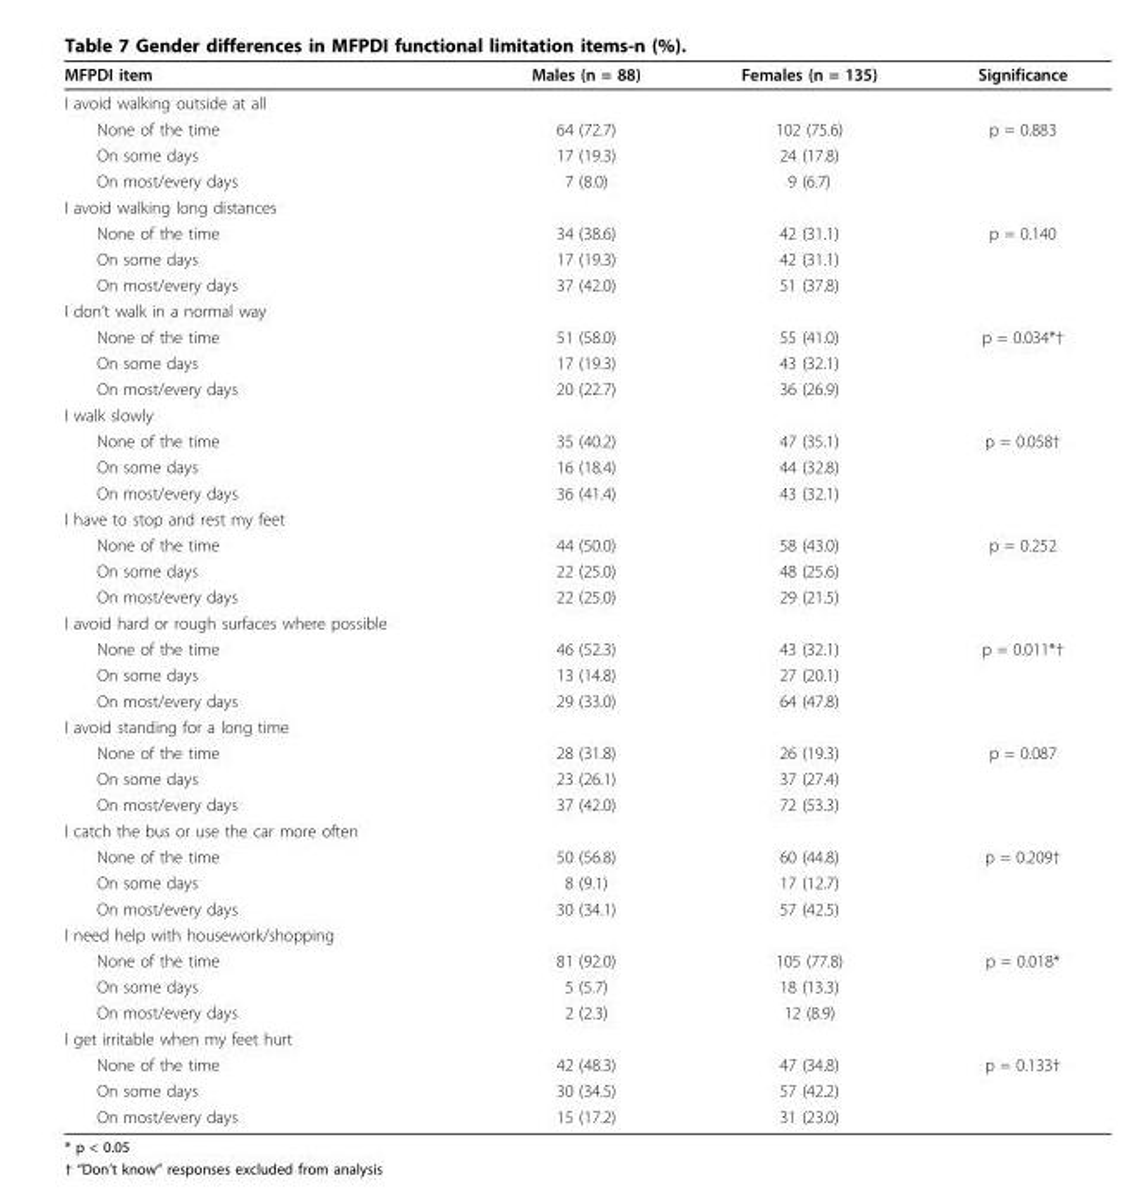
<table><thead><tr><td>MFPDI item</td><td>Males (n = 88)</td><td>Females (n = 135)</td><td>Significance</td></tr></thead><tbody><tr><td colspan="4">I avoid walking outside at all</td></tr><tr><td>None of the time</td><td>64 (72.7)</td><td>102 (75.6)</td><td>p = 0.883</td></tr><tr><td>On some days</td><td>17 (19.3)</td><td>24 (17.8)</td><td></td></tr><tr><td>On most/every days</td><td>7 (8.0)</td><td>9 (6.7)</td><td></td></tr><tr><td colspan="4">I avoid walking long distances</td></tr><tr><td>None of the time</td><td>34 (38.6)</td><td>42 (31.1)</td><td>p = 0.140</td></tr><tr><td>On some days</td><td>17 (19.3)</td><td>42 (31.1)</td><td></td></tr><tr><td>On most/every days</td><td>37 (42.0)</td><td>51 (37.8)</td><td></td></tr><tr><td colspan="4">I don’t walk in a normal way</td></tr><tr><td>None of the time</td><td>51 (58.0)</td><td>55 (41.0)</td><td>p = 0.034*†</td></tr><tr><td>On some days</td><td>17 (19.3)</td><td>43 (32.1)</td><td></td></tr><tr><td>On most/every days</td><td>20 (22.7)</td><td>36 (26.9)</td><td></td></tr><tr><td colspan="4">I walk slowly</td></tr><tr><td>None of the time</td><td>35 (40.2)</td><td>47 (35.1)</td><td>p = 0.058†</td></tr><tr><td>On some days</td><td>16 (18.4)</td><td>44 (32.8)</td><td></td></tr><tr><td>On most/every days</td><td>36 (41.4)</td><td>43 (32.1)</td><td></td></tr><tr><td colspan="4">I have to stop and rest my feet</td></tr><tr><td>None of the time</td><td>44 (50.0)</td><td>58 (43.0)</td><td>p = 0.252</td></tr><tr><td>On some days</td><td>22 (25.0)</td><td>48 (25.6)</td><td></td></tr><tr><td>On most/every days</td><td>22 (25.0)</td><td>29 (21.5)</td><td></td></tr><tr><td colspan="4">I avoid hard or rough surfaces where possible</td></tr><tr><td>None of the time</td><td>46 (52.3)</td><td>43 (32.1)</td><td>p = 0.011*†</td></tr><tr><td>On some days</td><td>13 (14.8)</td><td>27 (20.1)</td><td></td></tr><tr><td>On most/every days</td><td>29 (33.0)</td><td>64 (47.8)</td><td></td></tr><tr><td colspan="4">I avoid standing for a long time</td></tr><tr><td>None of the time</td><td>28 (31.8)</td><td>26 (19.3)</td><td>p = 0.087</td></tr><tr><td>On some days</td><td>23 (26.1)</td><td>37 (27.4)</td><td></td></tr><tr><td>On most/every days</td><td>37 (42.0)</td><td>72 (53.3)</td><td></td></tr><tr><td colspan="4">I catch the bus or use the car more often</td></tr><tr><td>None of the time</td><td>50 (56.8)</td><td>60 (44.8)</td><td>p = 0.209†</td></tr><tr><td>On some days</td><td>8 (9.1)</td><td>17 (12.7)</td><td></td></tr><tr><td>On most/every days</td><td>30 (34.1)</td><td>57 (42.5)</td><td></td></tr><tr><td colspan="4">I need help with housework/shopping</td></tr><tr><td>None of the time</td><td>81 (92.0)</td><td>105 (77.8)</td><td>p = 0.018*</td></tr><tr><td>On some days</td><td>5 (5.7)</td><td>18 (13.3)</td><td></td></tr><tr><td>On most/every days</td><td>2 (2.3)</td><td>12 (8.9)</td><td></td></tr><tr><td colspan="4">I get irritable when my feet hurt</td></tr><tr><td>None of the time</td><td>42 (48.3)</td><td>47 (34.8)</td><td>p = 0.133†</td></tr><tr><td>On some days</td><td>30 (34.5)</td><td>57 (42.2)</td><td></td></tr><tr><td>On most/every days</td><td>15 (17.2)</td><td>31 (23.0)</td><td></td></tr></tbody></table>